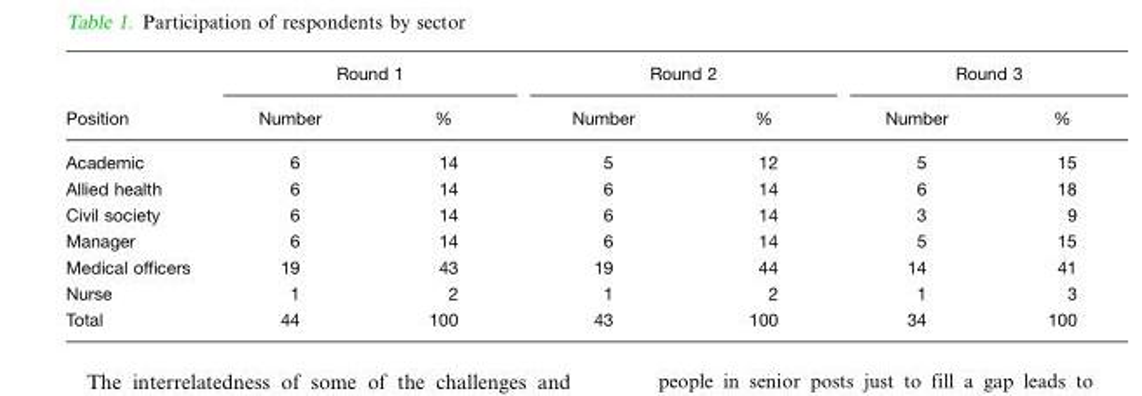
<table><thead><tr><td rowspan="2">Position</td><td colspan="2">Round 1</td><td colspan="2">Round 2</td><td colspan="2">Round 3</td></tr><tr><td>Number</td><td>%</td><td>Number</td><td>%</td><td>Number</td><td>%</td></tr></thead><tbody><tr><td>Academic</td><td>6</td><td>14</td><td>5</td><td>12</td><td>5</td><td>15</td></tr><tr><td>Allied health</td><td>6</td><td>14</td><td>6</td><td>14</td><td>6</td><td>18</td></tr><tr><td>Civil society</td><td>6</td><td>14</td><td>6</td><td>14</td><td>3</td><td>9</td></tr><tr><td>Manager</td><td>6</td><td>14</td><td>6</td><td>14</td><td>5</td><td>15</td></tr><tr><td>Medical officers</td><td>19</td><td>43</td><td>19</td><td>44</td><td>14</td><td>41</td></tr><tr><td>Nurse</td><td>1</td><td>2</td><td>1</td><td>2</td><td>1</td><td>3</td></tr><tr><td>Total</td><td>44</td><td>100</td><td>43</td><td>100</td><td>34</td><td>100</td></tr></tbody></table>